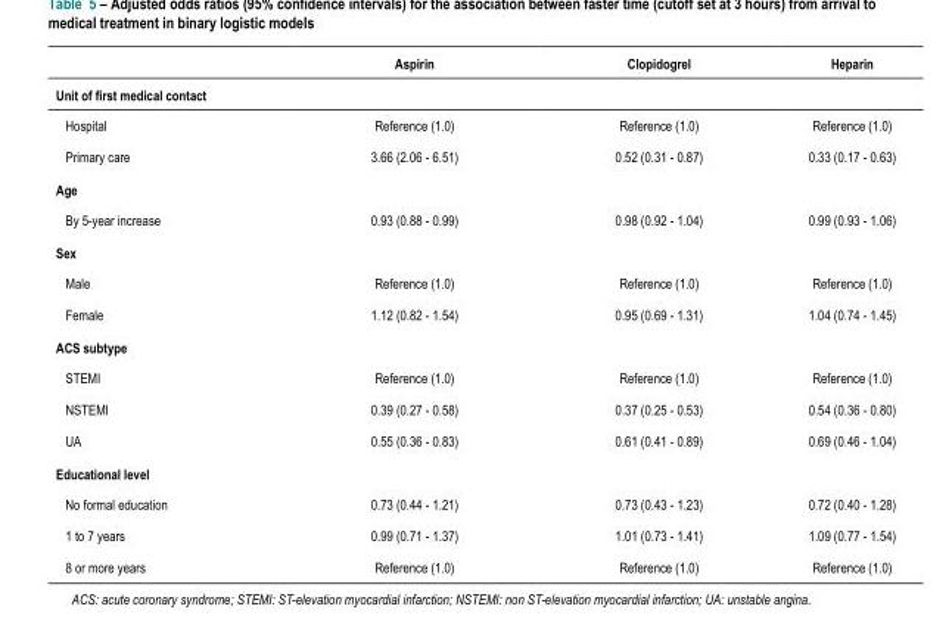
<table><thead><tr><td rowspan="2">Unit of first medical contact</td><td rowspan="2">Aspirin</td><td rowspan="2">Clopidogrel</td><td rowspan="2">Heparin</td></tr><tr></tr></thead><tbody><tr><td>Hospital</td><td>Reference (1.0)</td><td>Reference (1.0)</td><td>Reference (1.0)</td></tr><tr><td>Primary care</td><td>3.66 (2.06 - 6.51)</td><td>0.52 (0.31 - 0.87)</td><td>0.33 (0.17 - 0.63)</td></tr><tr><td colspan="4">Age</td></tr><tr><td>By 5-year increase</td><td>0.93 (0.88 - 0.99)</td><td>0.98 (0.92 - 1.04)</td><td>0.99 (0.93 - 1.06)</td></tr><tr><td colspan="4">Sex</td></tr><tr><td>Male</td><td>Reference (1.0)</td><td>Reference (1.0)</td><td>Reference (1.0)</td></tr><tr><td>Female</td><td>1.12 (0.82 - 1.54)</td><td>0.95 (0.69 - 1.31)</td><td>1.04 (0.74 - 1.45)</td></tr><tr><td colspan="4">ACS subtype</td></tr><tr><td>STEMI</td><td>Reference (1.0)</td><td>Reference (1.0)</td><td>Reference (1.0)</td></tr><tr><td>NSTEMI</td><td>0.39 (0.27 - 0.58)</td><td>0.37 (0.25 - 0.53)</td><td>0.54 (0.36 - 0.80)</td></tr><tr><td>UA</td><td>0.55 (0.36 - 0.83)</td><td>0.61 (0.41 - 0.89)</td><td>0.69 (0.46 - 1.04)</td></tr><tr><td colspan="4">Educational level</td></tr><tr><td>No formal education</td><td>0.73 (0.44 - 1.21)</td><td>0.73 (0.43 - 1.23)</td><td>0.72 (0.40 - 1.28)</td></tr><tr><td>1 to 7 years</td><td>0.99 (0.71 - 1.37)</td><td>1.01 (0.73 - 1.41)</td><td>1.09 (0.77 - 1.54)</td></tr><tr><td>8 or more years</td><td>Reference (1.0)</td><td>Reference (1.0)</td><td>Reference (1.0)</td></tr></tbody></table>